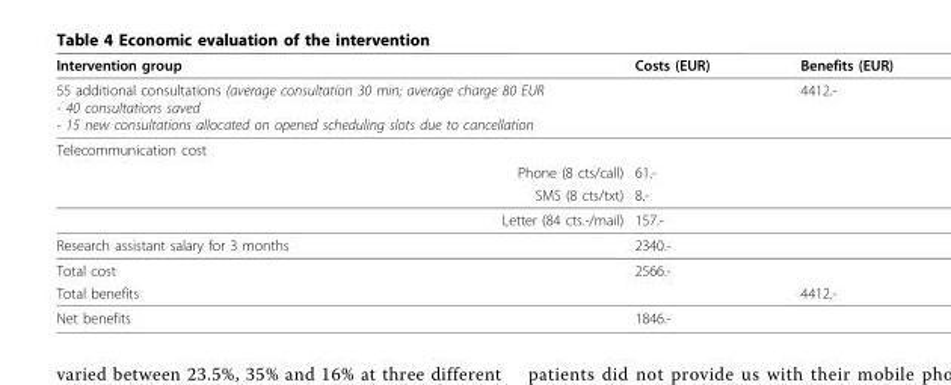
<table><thead><tr><td>Intervention group</td><td>Costs (EUR)</td><td>Benefits (EUR)</td></tr></thead><tbody><tr><td>55 additional consultations (average consultation 30 min; average charge 80 EUR - 40 consultations saved - 15 new consultations allocated on opened scheduling slots due to cancellation</td><td></td><td>4412.-</td></tr><tr><td colspan="3">Telecommunication cost</td></tr><tr><td>Phone (8 cts/call)</td><td>61.-</td><td></td></tr><tr><td>SMS (8 cts/txt)</td><td>8.-</td><td></td></tr><tr><td>Letter (84 cts.-/mail)</td><td>157.-</td><td></td></tr><tr><td>Research assistant salary for 3 months</td><td>2340.-</td><td></td></tr><tr><td>Total cost</td><td>2566.-</td><td></td></tr><tr><td>Total benefits</td><td></td><td>4412.-</td></tr><tr><td>Net benefits</td><td colspan="2">1846.-</td></tr></tbody></table>